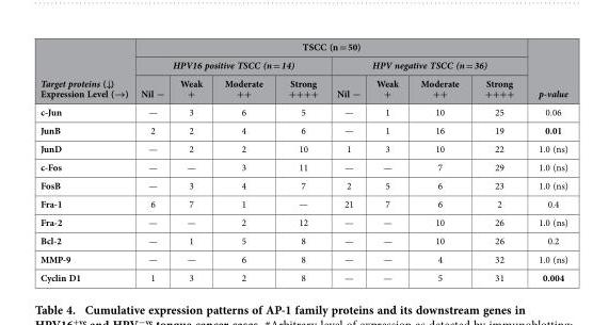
<table><thead><tr><td rowspan="3">Target proteins (↓) Expression Level (→)</td><td colspan="8">TSCC (n = 50)</td><td rowspan="3">p-value</td></tr><tr><td colspan="4">HPV16 positive TSCC (n = 14)</td><td colspan="4">HPV negative TSCC (n = 36)</td></tr><tr><td>Nil −</td><td>Weak +</td><td>Moderate ++</td><td>Strong ++++</td><td>Nil −</td><td>Weak +</td><td>Moderate ++</td><td>Strong ++++</td></tr></thead><tbody><tr><td>c-Jun</td><td>—</td><td>3</td><td>6</td><td>5</td><td>—</td><td>1</td><td>10</td><td>25</td><td>0.06</td></tr><tr><td>JunB</td><td>2</td><td>2</td><td>4</td><td>6</td><td>—</td><td>1</td><td>16</td><td>19</td><td>0.01</td></tr><tr><td>JunD</td><td>—</td><td>2</td><td>2</td><td>10</td><td>1</td><td>3</td><td>10</td><td>22</td><td>1.0 (ns)</td></tr><tr><td>c-Fos</td><td>—</td><td>—</td><td>3</td><td>11</td><td>—</td><td>—</td><td>7</td><td>29</td><td>1.0 (ns)</td></tr><tr><td>FosB</td><td>—</td><td>3</td><td>4</td><td>7</td><td>2</td><td>5</td><td>6</td><td>23</td><td>1.0 (ns)</td></tr><tr><td>Fra-1</td><td>6</td><td>7</td><td>1</td><td>—</td><td>21</td><td>7</td><td>6</td><td>2</td><td>0.4</td></tr><tr><td>Fra-2</td><td>—</td><td>—</td><td>2</td><td>12</td><td>—</td><td>—</td><td>10</td><td>26</td><td>1.0 (ns)</td></tr><tr><td>Bcl-2</td><td>—</td><td>1</td><td>5</td><td>8</td><td>—</td><td>—</td><td>10</td><td>26</td><td>0.2</td></tr><tr><td>MMP-9</td><td>—</td><td>—</td><td>6</td><td>8</td><td>—</td><td>—</td><td>4</td><td>32</td><td>1.0 (ns)</td></tr><tr><td>Cyclin D1</td><td>1</td><td>3</td><td>2</td><td>8</td><td>—</td><td>—</td><td>5</td><td>31</td><td>0.004</td></tr></tbody></table>